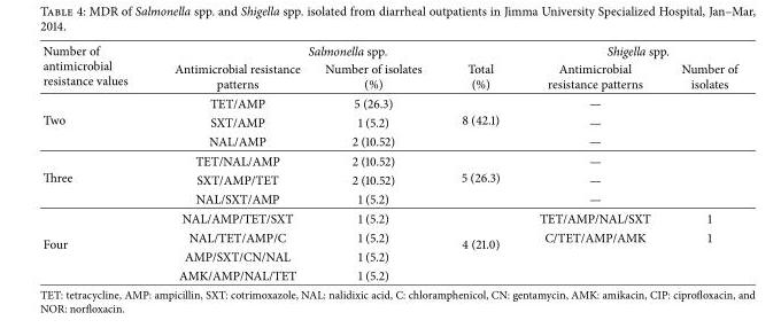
<table><thead><tr><td rowspan="2">Number of antimicrobial resistance values</td><td colspan="3">Salmonella spp.</td><td colspan="2">Shigella spp.</td></tr><tr><td>Antimicrobial resistance patterns</td><td>Number of isolates (%)</td><td>Total (%)</td><td>Antimicrobial resistance patterns</td><td>Number of isolates</td></tr></thead><tbody><tr><td rowspan="3">Two</td><td>TET/AMP</td><td>5 (26.3)</td><td rowspan="3">8 (42.1)</td><td>—</td><td></td></tr><tr><td>SXT/AMP</td><td>1 (5.2)</td><td>—</td><td></td></tr><tr><td>NAL/AMP</td><td>2 (10.52)</td><td>—</td><td></td></tr><tr><td rowspan="3">Three</td><td>TET/NAL/AMP</td><td>2 (10.52)</td><td rowspan="3">5 (26.3)</td><td>—</td><td></td></tr><tr><td>SXT/AMP/TET</td><td>2 (10.52)</td><td>—</td><td></td></tr><tr><td>NAL/SXT/AMP</td><td>1 (5.2)</td><td>—</td><td></td></tr><tr><td rowspan="4">Four</td><td>NAL/AMP/TET/SXT</td><td>1 (5.2)</td><td rowspan="4">4 (21.0)</td><td>TET/AMP/NAL/SXT</td><td>1</td></tr><tr><td>NAL/TET/AMP/C</td><td>1 (5.2)</td><td>C/TET/AMP/AMK</td><td>1</td></tr><tr><td>AMP/SXT/CN/NAL</td><td>1 (5.2)</td><td></td><td></td></tr><tr><td>AMK/AMP/NAL/TET</td><td>1 (5.2)</td><td></td><td></td></tr></tbody></table>